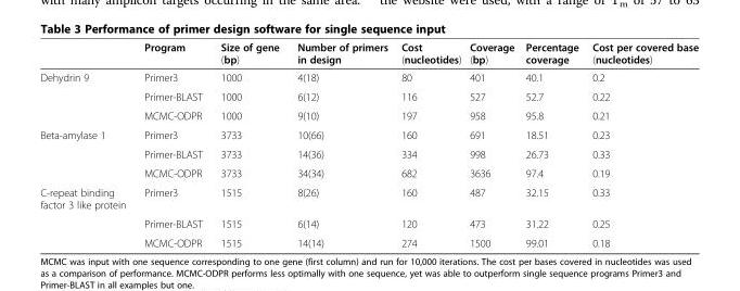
<table><thead><tr><td></td><td>Program</td><td>Size of gene (bp)</td><td>Number of primers in design</td><td>Cost (nucleotides)</td><td>Coverage (bp)</td><td>Percentage coverage</td><td>Cost per covered base (nucleotides)</td></tr></thead><tbody><tr><td rowspan="3">Dehydrin 9</td><td>Primer3</td><td>1000</td><td>4(18)</td><td>80</td><td>401</td><td>40.1</td><td>0.2</td></tr><tr><td>Primer-BLAST</td><td>1000</td><td>6(12)</td><td>116</td><td>527</td><td>52.7</td><td>0.22</td></tr><tr><td>MCMC-ODPR</td><td>1000</td><td>9(10)</td><td>197</td><td>958</td><td>95.8</td><td>0.21</td></tr><tr><td rowspan="3">Beta-amylase 1</td><td>Primer3</td><td>3733</td><td>10(66)</td><td>160</td><td>691</td><td>18.51</td><td>0.23</td></tr><tr><td>Primer-BLAST</td><td>3733</td><td>14(36)</td><td>334</td><td>998</td><td>26.73</td><td>0.33</td></tr><tr><td>MCMC-ODPR</td><td>3733</td><td>34(34)</td><td>682</td><td>3636</td><td>97.4</td><td>0.19</td></tr><tr><td rowspan="3">C-repeat binding factor 3 like protein</td><td>Primer3</td><td>1515</td><td>8(26)</td><td>160</td><td>487</td><td>32.15</td><td>0.33</td></tr><tr><td>Primer-BLAST</td><td>1515</td><td>6(14)</td><td>120</td><td>473</td><td>31.22</td><td>0.25</td></tr><tr><td>MCMC-ODPR</td><td>1515</td><td>14(14)</td><td>274</td><td>1500</td><td>99.01</td><td>0.18</td></tr></tbody></table>